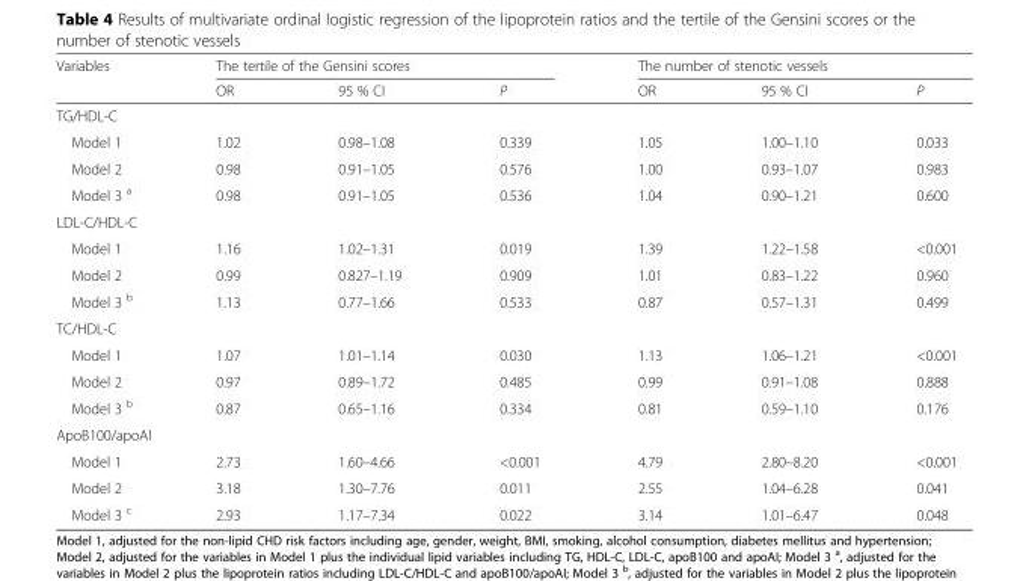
<table><thead><tr><td rowspan="2">Variables</td><td colspan="3">The tertile of the Gensini scores</td><td colspan="3">The number of stenotic vessels</td></tr><tr><td>OR</td><td>95 % CI</td><td>P</td><td>OR</td><td>95 % CI</td><td>P</td></tr></thead><tbody><tr><td colspan="7">TG/HDL-C</td></tr><tr><td>Model 1</td><td>1.02</td><td>0.98–1.08</td><td>0.339</td><td>1.05</td><td>1.00–1.10</td><td>0.033</td></tr><tr><td>Model 2</td><td>0.98</td><td>0.91–1.05</td><td>0.576</td><td>1.00</td><td>0.93–1.07</td><td>0.983</td></tr><tr><td>Model 3 <sup>a</sup></td><td>0.98</td><td>0.91–1.05</td><td>0.536</td><td>1.04</td><td>0.90–1.21</td><td>0.600</td></tr><tr><td colspan="7">LDL-C/HDL-C</td></tr><tr><td>Model 1</td><td>1.16</td><td>1.02–1.31</td><td>0.019</td><td>1.39</td><td>1.22–1.58</td><td>&lt;0.001</td></tr><tr><td>Model 2</td><td>0.99</td><td>0.827–1.19</td><td>0.909</td><td>1.01</td><td>0.83–1.22</td><td>0.960</td></tr><tr><td>Model 3 <sup>b</sup></td><td>1.13</td><td>0.77–1.66</td><td>0.533</td><td>0.87</td><td>0.57–1.31</td><td>0.499</td></tr><tr><td colspan="7">TC/HDL-C</td></tr><tr><td>Model 1</td><td>1.07</td><td>1.01–1.14</td><td>0.030</td><td>1.13</td><td>1.06–1.21</td><td>&lt;0.001</td></tr><tr><td>Model 2</td><td>0.97</td><td>0.89–1.72</td><td>0.485</td><td>0.99</td><td>0.91–1.08</td><td>0.888</td></tr><tr><td>Model 3 <sup>b</sup></td><td>0.87</td><td>0.65–1.16</td><td>0.334</td><td>0.81</td><td>0.59–1.10</td><td>0.176</td></tr><tr><td colspan="7">ApoB100/apoAI</td></tr><tr><td>Model 1</td><td>2.73</td><td>1.60–4.66</td><td>&lt;0.001</td><td>4.79</td><td>2.80–8.20</td><td>&lt;0.001</td></tr><tr><td>Model 2</td><td>3.18</td><td>1.30–7.76</td><td>0.011</td><td>2.55</td><td>1.04–6.28</td><td>0.041</td></tr><tr><td>Model 3 <sup>c</sup></td><td>2.93</td><td>1.17–7.34</td><td>0.022</td><td>3.14</td><td>1.01–6.47</td><td>0.048</td></tr></tbody></table>